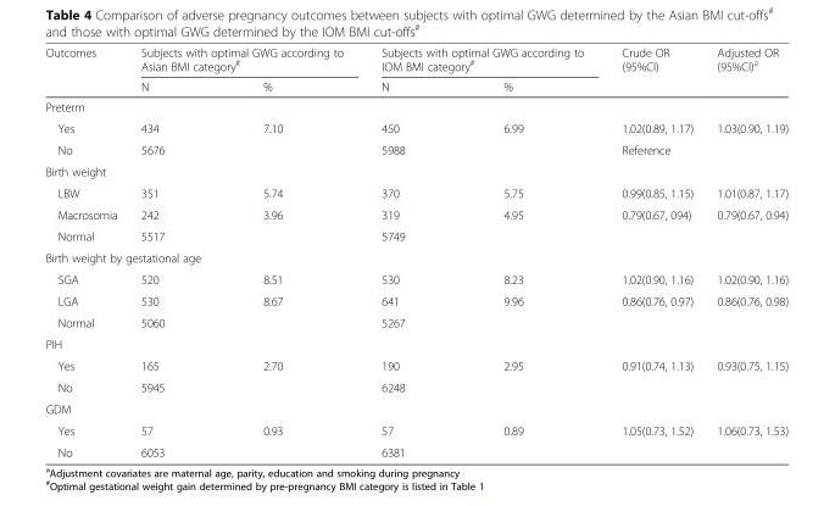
<table><thead><tr><td rowspan="2">Outcomes</td><td colspan="2">Subjects with optimal GWG according to Asian BMI category<sup>#</sup></td><td colspan="2">Subjects with optimal GWG according to IOM BMI category<sup>#</sup></td><td rowspan="2">Crude OR (95%CI)</td><td rowspan="2">Adjusted OR (95%CI)<sup>a</sup></td></tr><tr><td>N</td><td>%</td><td>N</td><td>%</td></tr></thead><tbody><tr><td colspan="7">Preterm</td></tr><tr><td>Yes</td><td>434</td><td>7.10</td><td>450</td><td>6.99</td><td>1.02(0.89, 1.17)</td><td>1.03(0.90, 1.19)</td></tr><tr><td>No</td><td>5676</td><td></td><td>5988</td><td></td><td>Reference</td><td></td></tr><tr><td colspan="7">Birth weight</td></tr><tr><td>LBW</td><td>351</td><td>5.74</td><td>370</td><td>5.75</td><td>0.99(0.85, 1.15)</td><td>1.01(0.87, 1.17)</td></tr><tr><td>Macrosomia</td><td>242</td><td>3.96</td><td>319</td><td>4.95</td><td>0.79(0.67, 094)</td><td>0.79(0.67, 0.94)</td></tr><tr><td>Normal</td><td>5517</td><td></td><td>5749</td><td></td><td></td><td></td></tr><tr><td colspan="7">Birth weight by gestational age</td></tr><tr><td>SGA</td><td>520</td><td>8.51</td><td>530</td><td>8.23</td><td>1.02(0.90, 1.16)</td><td>1.02(0.90, 1.16)</td></tr><tr><td>LGA</td><td>530</td><td>8.67</td><td>641</td><td>9.96</td><td>0.86(0.76, 0.97)</td><td>0.86(0.76, 0.98)</td></tr><tr><td>Normal</td><td>5060</td><td></td><td>5267</td><td></td><td></td><td></td></tr><tr><td colspan="7">PIH</td></tr><tr><td>Yes</td><td>165</td><td>2.70</td><td>190</td><td>2.95</td><td>0.91(0.74, 1.13)</td><td>0.93(0.75, 1.15)</td></tr><tr><td>No</td><td>5945</td><td></td><td>6248</td><td></td><td></td><td></td></tr><tr><td colspan="7">GDM</td></tr><tr><td>Yes</td><td>57</td><td>0.93</td><td>57</td><td>0.89</td><td>1.05(0.73, 1.52)</td><td>1.06(0.73, 1.53)</td></tr><tr><td>No</td><td>6053</td><td></td><td>6381</td><td></td><td></td><td></td></tr></tbody></table>